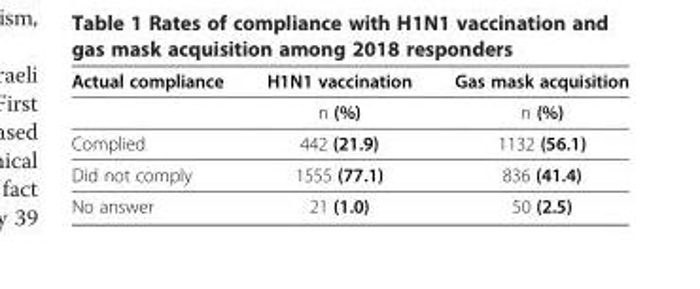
<table><thead><tr><td>Actual compliance</td><td>H1N1 vaccination</td><td>Gas mask acquisition</td></tr></thead><tbody><tr><td></td><td>n (%)</td><td>n (%)</td></tr><tr><td>Complied</td><td>442 (21.9)</td><td>1132 (56.1)</td></tr><tr><td>Did not comply</td><td>1555 (77.1)</td><td>836 (41.4)</td></tr><tr><td>No answer</td><td>21 (1.0)</td><td>50 (2.5)</td></tr></tbody></table>